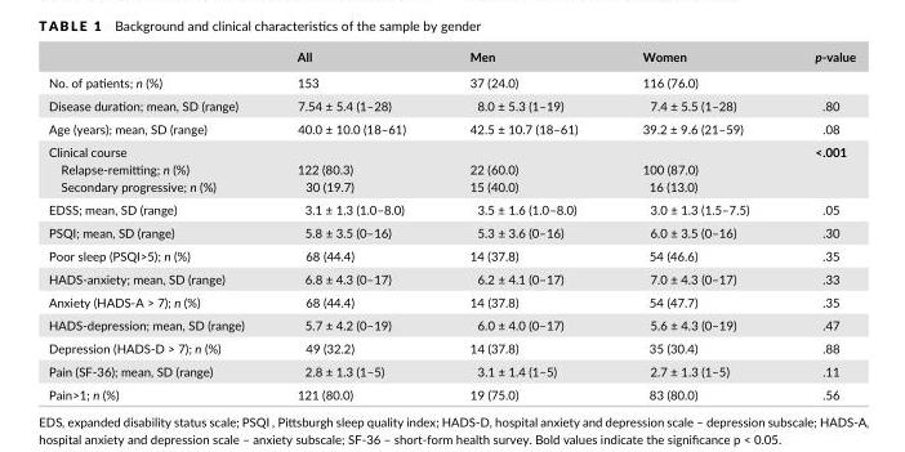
<table><thead><tr><td></td><td>All</td><td>Men</td><td>Women</td><td>p- value</td></tr></thead><tbody><tr><td>No. of patients; n (%)</td><td>153</td><td>37 (24.0)</td><td>116 (76.0)</td><td></td></tr><tr><td>Disease duration; mean, SD (range)</td><td>7.54 ± 5.4 (1–28)</td><td>8.0 ± 5.3 (1–19)</td><td>7.4 ± 5.5 (1–28)</td><td>.80</td></tr><tr><td>Age (years); mean, SD (range)</td><td>40.0 ± 10.0 (18–61)</td><td>42.5 ± 10.7 (18–61)</td><td>39.2 ± 9.6 (21–59)</td><td>.08</td></tr><tr><td colspan="4">Clinical course</td><td>&lt;.001</td></tr><tr><td>Relapse- remitting; n (%)</td><td>122 (80.3)</td><td>22 (60.0)</td><td>100 (87.0)</td><td></td></tr><tr><td>Secondary progressive; n (%)</td><td>30 (19.7)</td><td>15 (40.0)</td><td>16 (13.0)</td><td></td></tr><tr><td>EDSS; mean, SD (range)</td><td>3.1 ± 1.3 (1.0–8.0)</td><td>3.5 ± 1.6 (1.0–8.0)</td><td>3.0 ± 1.3 (1.5–7.5)</td><td>.05</td></tr><tr><td>PSQI; mean, SD (range)</td><td>5.8 ± 3.5 (0–16)</td><td>5.3 ± 3.6 (0–16)</td><td>6.0 ± 3.5 (0–16)</td><td>.30</td></tr><tr><td>Poor sleep (PSQI&gt;5); n (%)</td><td>68 (44.4)</td><td>14 (37.8)</td><td>54 (46.6)</td><td>.35</td></tr><tr><td>HADS- anxiety; mean, SD (range)</td><td>6.8 ± 4.3 (0–17)</td><td>6.2 ± 4.1 (0–17)</td><td>7.0 ± 4.3 (0–17)</td><td>.33</td></tr><tr><td>Anxiety (HADS- A &gt; 7); n (%)</td><td>68 (44.4)</td><td>14 (37.8)</td><td>54 (47.7)</td><td>.35</td></tr><tr><td>HADS- depression; mean, SD (range)</td><td>5.7 ± 4.2 (0–19)</td><td>6.0 ± 4.0 (0–17)</td><td>5.6 ± 4.3 (0–19)</td><td>.47</td></tr><tr><td>Depression (HADS- D &gt; 7); n (%)</td><td>49 (32.2)</td><td>14 (37.8)</td><td>35 (30.4)</td><td>.88</td></tr><tr><td>Pain (SF- 36); mean, SD (range)</td><td>2.8 ± 1.3 (1–5)</td><td>3.1 ± 1.4 (1–5)</td><td>2.7 ± 1.3 (1–5)</td><td>.11</td></tr><tr><td>Pain&gt;1; n (%)</td><td>121 (80.0)</td><td>19 (75.0)</td><td>83 (80.0)</td><td>.56</td></tr></tbody></table>